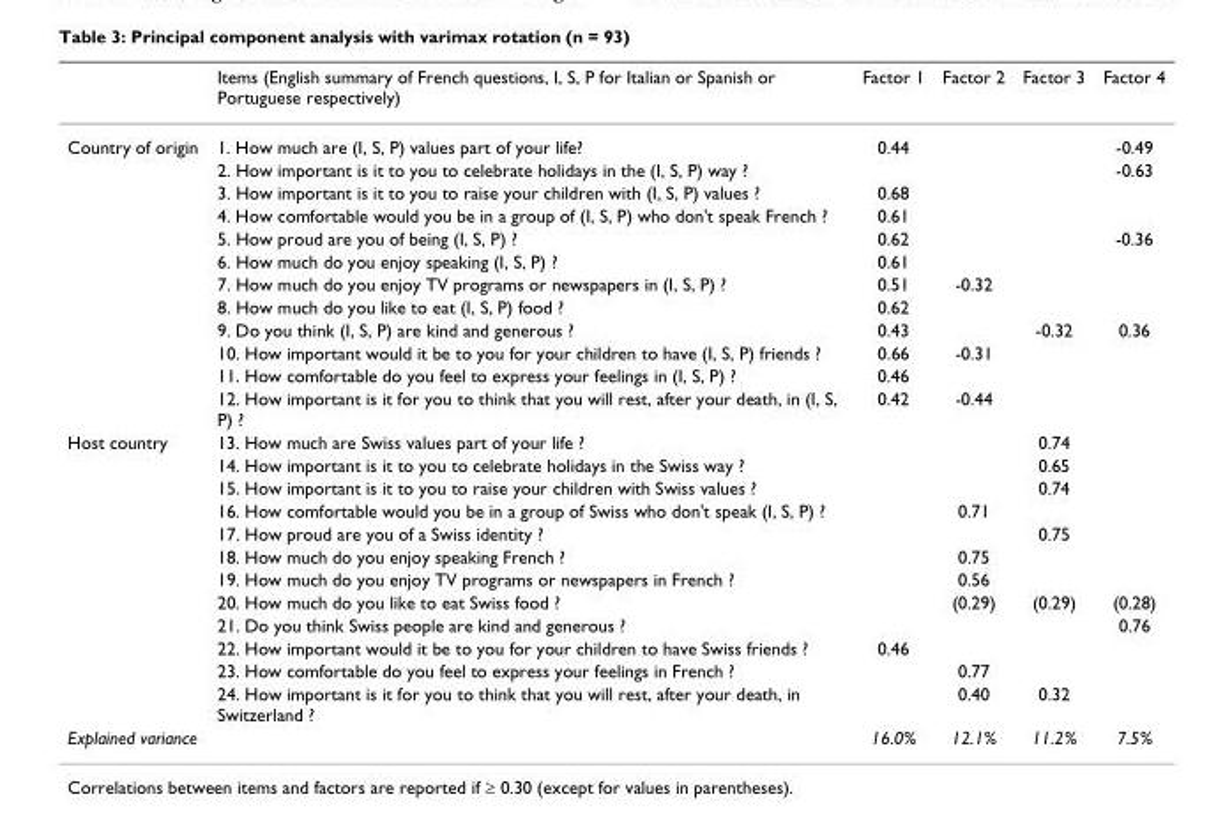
<table><thead><tr><td></td><td>Items (English summary of French questions, I, S, P for Italian or Spanish or Portuguese respectively)</td><td>Factor 1</td><td>Factor 2</td><td>Factor 3</td><td>Factor 4</td></tr></thead><tbody><tr><td rowspan="12">Country of origin</td><td>1. How much are (I, S, P) values part of your life?</td><td>0.44</td><td></td><td></td><td>-0.49</td></tr><tr><td>2. How important is it to you to celebrate holidays in the (I, S, P) way ?</td><td></td><td></td><td></td><td>-0.63</td></tr><tr><td>3. How important is it to you to raise your children with (I, S, P) values ?</td><td>0.68</td><td></td><td></td><td></td></tr><tr><td>4. How comfortable would you be in a group of (I, S, P) who don&#x27;t speak French ?</td><td>0.61</td><td></td><td></td><td></td></tr><tr><td>5. How proud are you of being (I, S, P) ?</td><td>0.62</td><td></td><td></td><td>-0.36</td></tr><tr><td>6. How much do you enjoy speaking (I, S, P) ?</td><td>0.61</td><td></td><td></td><td></td></tr><tr><td>7. How much do you enjoy TV programs or newspapers in (I, S, P) ?</td><td>0.51</td><td>-0.32</td><td></td><td></td></tr><tr><td>8. How much do you like to eat (I, S, P) food ?</td><td>0.62</td><td></td><td></td><td></td></tr><tr><td>9. Do you think (I, S, P) are kind and generous ?</td><td>0.43</td><td></td><td>-0.32</td><td>0.36</td></tr><tr><td>10. How important would it be to you for your children to have (I, S, P) friends ?</td><td>0.66</td><td>-0.31</td><td></td><td></td></tr><tr><td>11. How comfortable do you feel to express your feelings in (I, S, P) ?</td><td>0.46</td><td></td><td></td><td></td></tr><tr><td>12. How important is it for you to think that you will rest, after your death, in (I, S, P) ?</td><td>0.42</td><td>-0.44</td><td></td><td></td></tr><tr><td rowspan="12">Host country</td><td>13. How much are Swiss values part of your life ?</td><td></td><td></td><td>0.74</td><td></td></tr><tr><td>14. How important is it to you to celebrate holidays in the Swiss way ?</td><td></td><td></td><td>0.65</td><td></td></tr><tr><td>15. How important is it to you to raise your children with Swiss values ?</td><td></td><td></td><td>0.74</td><td></td></tr><tr><td>16. How comfortable would you be in a group of Swiss who don&#x27;t speak (I, S, P) ?</td><td></td><td>0.71</td><td></td><td></td></tr><tr><td>17. How proud are you of a Swiss identity ?</td><td></td><td></td><td>0.75</td><td></td></tr><tr><td>18. How much do you enjoy speaking French ?</td><td></td><td>0.75</td><td></td><td></td></tr><tr><td>19. How much do you enjoy TV programs or newspapers in French ?</td><td></td><td>0.56</td><td></td><td></td></tr><tr><td>20. How much do you like to eat Swiss food ?</td><td></td><td>(0.29)</td><td>(0.29)</td><td>(0.28)</td></tr><tr><td>21. Do you think Swiss people are kind and generous ?</td><td></td><td></td><td></td><td>0.76</td></tr><tr><td>22. How important would it be to you for your children to have Swiss friends ?</td><td>0.46</td><td></td><td></td><td></td></tr><tr><td>23. How comfortable do you feel to express your feelings in French ?</td><td></td><td>0.77</td><td></td><td></td></tr><tr><td>24. How important is it for you to think that you will rest, after your death, in Switzerland ?</td><td></td><td>0.40</td><td>0.32</td><td></td></tr><tr><td>Explained variance</td><td></td><td>16.0%</td><td>12.1%</td><td>11.2%</td><td>7.5%</td></tr></tbody></table>